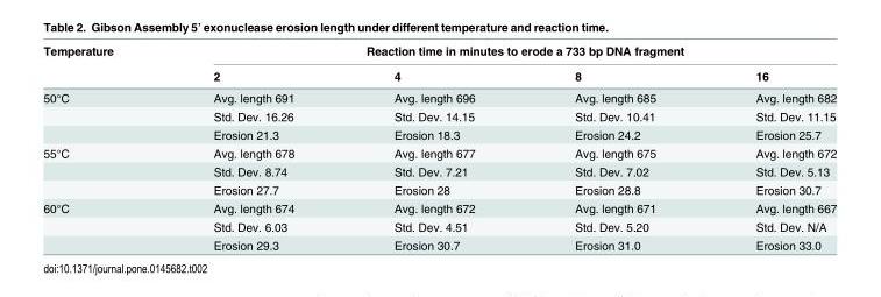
<table><thead><tr><td rowspan="2">Temperature</td><td colspan="4">Reaction time in minutes to erode a 733 bp DNA fragment</td></tr><tr><td>2</td><td>4</td><td>8</td><td>16</td></tr></thead><tbody><tr><td rowspan="3">50°C</td><td>Avg. length 691</td><td>Avg. length 696</td><td>Avg. length 685</td><td>Avg. length 682</td></tr><tr><td>Std. Dev. 16.26</td><td>Std. Dev. 14.15</td><td>Std. Dev. 10.41</td><td>Std. Dev. 11.15</td></tr><tr><td>Erosion 21.3</td><td>Erosion 18.3</td><td>Erosion 24.2</td><td>Erosion 25.7</td></tr><tr><td rowspan="3">55°C</td><td>Avg. length 678</td><td>Avg. length 677</td><td>Avg. length 675</td><td>Avg. length 672</td></tr><tr><td>Std. Dev. 8.74</td><td>Std. Dev. 7.21</td><td>Std. Dev. 7.02</td><td>Std. Dev. 5.13</td></tr><tr><td>Erosion 27.7</td><td>Erosion 28</td><td>Erosion 28.8</td><td>Erosion 30.7</td></tr><tr><td rowspan="3">60°C</td><td>Avg. length 674</td><td>Avg. length 672</td><td>Avg. length 671</td><td>Avg. length 667</td></tr><tr><td>Std. Dev. 6.03</td><td>Std. Dev. 4.51</td><td>Std. Dev. 5.20</td><td>Std. Dev. N/A</td></tr><tr><td>Erosion 29.3</td><td>Erosion 30.7</td><td>Erosion 31.0</td><td>Erosion 33.0</td></tr></tbody></table>